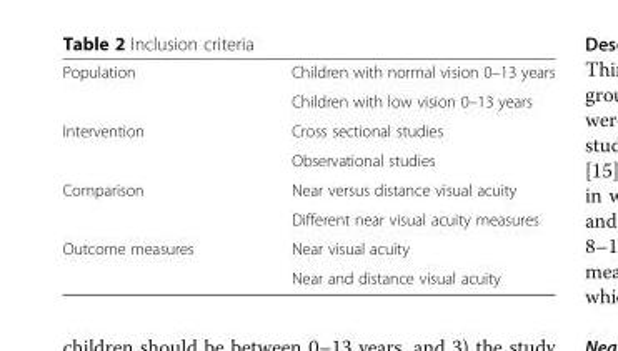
<table><tbody><tr><td rowspan="2">Population</td><td>Children with normal vision 0–13 years</td></tr><tr><td>Children with low vision 0–13 years</td></tr><tr><td rowspan="2">Intervention</td><td>Cross sectional studies</td></tr><tr><td>Observational studies</td></tr><tr><td rowspan="2">Comparison</td><td>Near versus distance visual acuity</td></tr><tr><td>Different near visual acuity measures</td></tr><tr><td rowspan="2">Outcome measures</td><td>Near visual acuity</td></tr><tr><td>Near and distance visual acuity</td></tr></tbody></table>